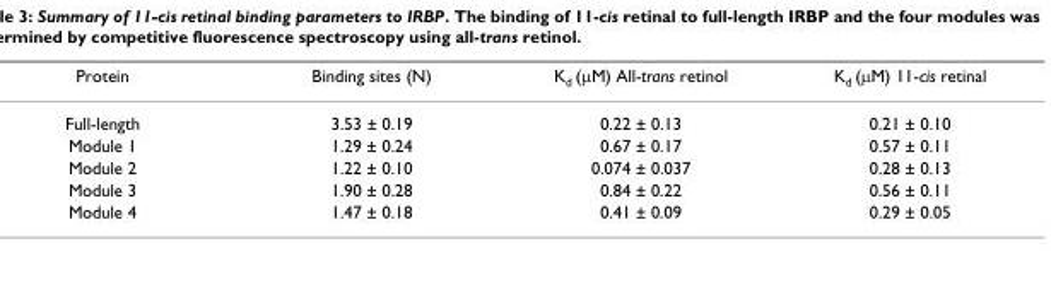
<table><thead><tr><td>Protein</td><td>Binding sites (N)</td><td>K<sub>d</sub> (µM) All-trans retinol</td><td>K<sub>d</sub> (µM) 11-cis retinal</td></tr></thead><tbody><tr><td>Full-length</td><td>3.53 ± 0.19</td><td>0.22 ± 0.13</td><td>0.21 ± 0.10</td></tr><tr><td>Module 1</td><td>1.29 ± 0.24</td><td>0.67 ± 0.17</td><td>0.57 ± 0.11</td></tr><tr><td>Module 2</td><td>1.22 ± 0.10</td><td>0.074 ± 0.037</td><td>0.28 ± 0.13</td></tr><tr><td>Module 3</td><td>1.90 ± 0.28</td><td>0.84 ± 0.22</td><td>0.56 ± 0.11</td></tr><tr><td>Module 4</td><td>1.47 ± 0.18</td><td>0.41 ± 0.09</td><td>0.29 ± 0.05</td></tr></tbody></table>